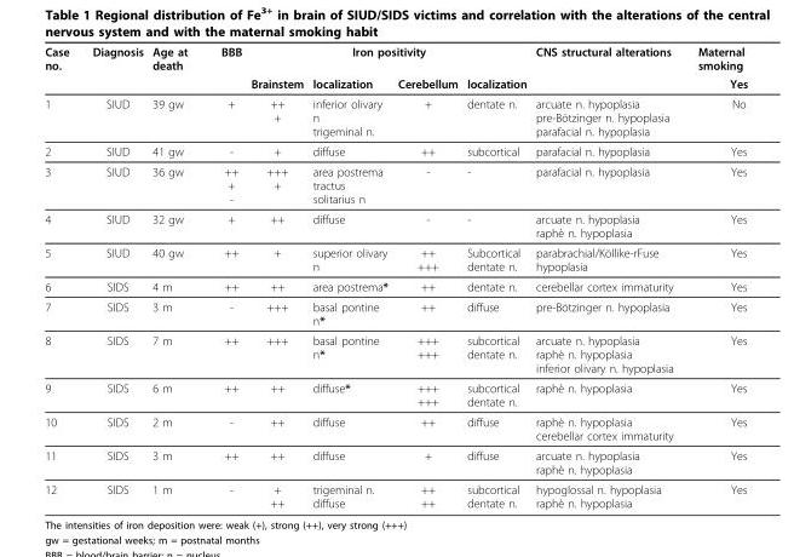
<table><thead><tr><td rowspan="2">Case no.</td><td rowspan="2">Diagnosis</td><td rowspan="2">Age at death</td><td rowspan="2">BBB</td><td colspan="4">Iron positivity</td><td rowspan="2">CNS structural alterations</td><td rowspan="2">Maternal smoking Yes</td></tr><tr><td>Brainstem</td><td>localization</td><td>Cerebellum</td><td>localization</td></tr></thead><tbody><tr><td>1</td><td>SIUD</td><td>39 gw</td><td>+</td><td>++ +</td><td>inferior olivary n trigeminal n.</td><td>+</td><td>dentate n.</td><td>arcuate n. hypoplasia pre-Bötzinger n. hypoplasia parafacial n. hypoplasia</td><td>No</td></tr><tr><td>2</td><td>SIUD</td><td>41 gw</td><td>-</td><td>+</td><td>diffuse</td><td>++</td><td>subcortical</td><td>parafacial n. hypoplasia</td><td>Yes</td></tr><tr><td>3</td><td>SIUD</td><td>36 gw</td><td>++ + -</td><td>+++ +</td><td>area postrema tractus solitarius n</td><td>-</td><td>-</td><td>parafacial n. hypoplasia</td><td>Yes</td></tr><tr><td>4</td><td>SIUD</td><td>32 gw</td><td>+</td><td>++</td><td>diffuse</td><td>-</td><td>-</td><td>arcuate n. hypoplasia raphè n. hypoplasia</td><td>Yes</td></tr><tr><td>5</td><td>SIUD</td><td>40 gw</td><td>++</td><td>+</td><td>superior olivary n</td><td>++ +++</td><td>Subcortical dentate n.</td><td>parabrachial/Köllike-rFuse hypoplasia</td><td>Yes</td></tr><tr><td>6</td><td>SIDS</td><td>4 m</td><td>++</td><td>++</td><td>area postrema*</td><td>++</td><td>dentate n.</td><td>cerebellar cortex immaturity</td><td>Yes</td></tr><tr><td>7</td><td>SIDS</td><td>3 m</td><td>-</td><td>+++</td><td>basal pontine n*</td><td>++</td><td>diffuse</td><td>pre-Bötzinger n. hypoplasia</td><td>Yes</td></tr><tr><td>8</td><td>SIDS</td><td>7 m</td><td>++</td><td>+++</td><td>basal pontine n*</td><td>+++ +++</td><td>subcortical dentate n.</td><td>arcuate n. hypoplasia raphè n. hypoplasia inferior olivary n. hypoplasia</td><td>Yes</td></tr><tr><td>9</td><td>SIDS</td><td>6 m</td><td>++</td><td>++</td><td>diffuse*</td><td>+++ +++</td><td>subcortical dentate n.</td><td>raphè n. hypoplasia</td><td>Yes</td></tr><tr><td>10</td><td>SIDS</td><td>2 m</td><td>-</td><td>++</td><td>diffuse</td><td>++</td><td>diffuse</td><td>raphè n. hypoplasia cerebellar cortex immaturity</td><td>Yes</td></tr><tr><td>11</td><td>SIDS</td><td>3 m</td><td>++</td><td>++</td><td>diffuse</td><td>+</td><td>diffuse</td><td>arcuate n. hypoplasia raphè n. hypoplasia</td><td>Yes</td></tr><tr><td>12</td><td>SIDS</td><td>1 m</td><td>-</td><td>+ ++</td><td>trigeminal n. diffuse</td><td>++ ++</td><td>subcortical dentate n.</td><td>hypoglossal n. hypoplasia raphè n. hypoplasia</td><td>Yes</td></tr></tbody></table>